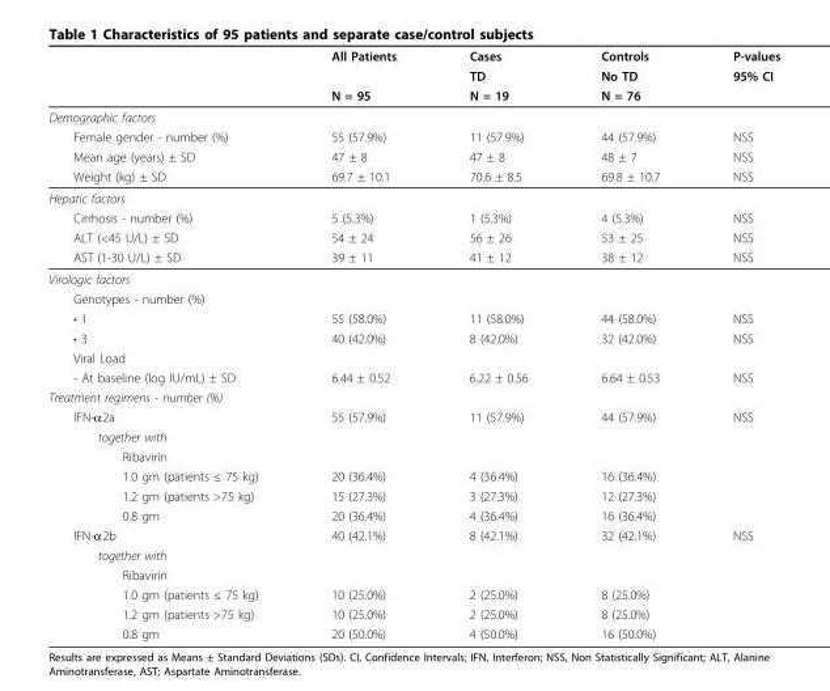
<table><thead><tr><td rowspan="3"></td><td rowspan="3">All Patients N = 95</td><td rowspan="3">Cases TD N = 19</td><td rowspan="3">Controls No TD N = 76</td><td rowspan="3">P-values 95% CI</td></tr><tr></tr><tr></tr></thead><tbody><tr><td colspan="5">Demographic factors</td></tr><tr><td>Female gender - number (%)</td><td>55 (57.9%)</td><td>11 (57.9%)</td><td>44 (57.9%)</td><td>NSS</td></tr><tr><td>Mean age (years) ± SD</td><td>47 ± 8</td><td>47 ± 8</td><td>48 ± 7</td><td>NSS</td></tr><tr><td>Weight (kg) ± SD</td><td>69.7 ± 10.1</td><td>70.6 ± 8.5</td><td>69.8 ± 10.7</td><td>NSS</td></tr><tr><td colspan="5">Hepatic factors</td></tr><tr><td>Cirrhosis - number (%)</td><td>5 (5.3%)</td><td>1 (5.3%)</td><td>4 (5.3%)</td><td>NSS</td></tr><tr><td>ALT (&lt;45 U/L) ± SD</td><td>54 ± 24</td><td>56 ± 26</td><td>53 ± 25</td><td>NSS</td></tr><tr><td>AST (1-30 U/L) ± SD</td><td>39 ± 11</td><td>41 ± 12</td><td>38 ± 12</td><td>NSS</td></tr><tr><td colspan="5">Virologic factors</td></tr><tr><td colspan="5">Genotypes - number (%)</td></tr><tr><td>• 1</td><td>55 (58.0%)</td><td>11 (58.0%)</td><td>44 (58.0%)</td><td>NSS</td></tr><tr><td>• 3</td><td>40 (42.0%)</td><td>8 (42.0%)</td><td>32 (42.0%)</td><td>NSS</td></tr><tr><td colspan="5">Viral Load</td></tr><tr><td>- At baseline (log IU/mL) ± SD</td><td>6.44 ± 0.52</td><td>6.22 ± 0.56</td><td>6.64 ± 0.53</td><td>NSS</td></tr><tr><td colspan="5">Treatment regimens - number (%)</td></tr><tr><td>IFN-α2a</td><td>55 (57.9%)</td><td>11 (57.9%)</td><td>44 (57.9%)</td><td>NSS</td></tr><tr><td colspan="5">together with</td></tr><tr><td colspan="5">Ribavirin</td></tr><tr><td>1.0 gm (patients ≤ 75 kg)</td><td>20 (36.4%)</td><td>4 (36.4%)</td><td>16 (36.4%)</td><td></td></tr><tr><td>1.2 gm (patients &gt;75 kg)</td><td>15 (27.3%)</td><td>3 (27.3%)</td><td>12 (27.3%)</td><td></td></tr><tr><td>0.8 gm</td><td>20 (36.4%)</td><td>4 (36.4%)</td><td>16 (36.4%)</td><td></td></tr><tr><td>IFN-α2b</td><td>40 (42.1%)</td><td>8 (42.1%)</td><td>32 (42.1%)</td><td>NSS</td></tr><tr><td colspan="5">together with</td></tr><tr><td colspan="5">Ribavirin</td></tr><tr><td>1.0 gm (patients ≤ 75 kg)</td><td>10 (25.0%)</td><td>2 (25.0%)</td><td>8 (25.0%)</td><td></td></tr><tr><td>1.2 gm (patients &gt;75 kg)</td><td>10 (25.0%)</td><td>2 (25.0%)</td><td>8 (25.0%)</td><td></td></tr><tr><td>0.8 gm</td><td>20 (50.0%)</td><td>4 (50.0%)</td><td>16 (50.0%)</td><td></td></tr></tbody></table>